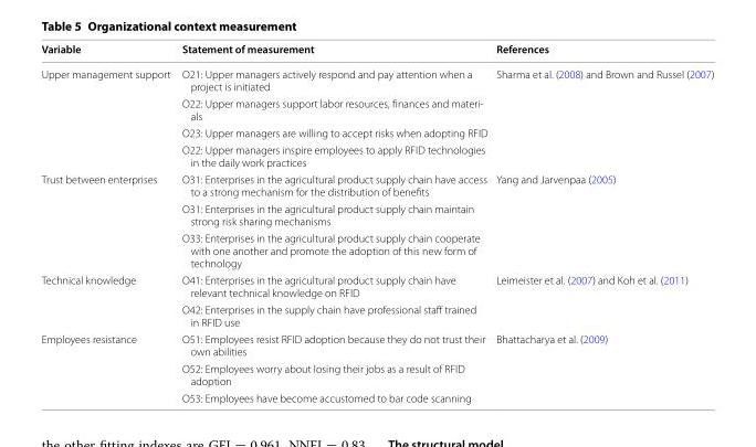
<table><thead><tr><td>Variable</td><td>Statement of measurement</td><td>References</td></tr></thead><tbody><tr><td rowspan="4">Upper management support</td><td>O21: Upper managers actively respond and pay attention when a project is initiated</td><td rowspan="4">Sharma et al. (2008) and Brown and Russel (2007)</td></tr><tr><td>O22: Upper managers support labor resources, finances and materi- als</td></tr><tr><td>O23: Upper managers are willing to accept risks when adopting RFID</td></tr><tr><td>O22: Upper managers inspire employees to apply RFID technologies in the daily work practices</td></tr><tr><td rowspan="3">Trust between enterprises</td><td>O31: Enterprises in the agricultural product supply chain have access to a strong mechanism for the distribution of benefits</td><td rowspan="3">Yang and Jarvenpaa (2005)</td></tr><tr><td>O31: Enterprises in the agricultural product supply chain maintain strong risk sharing mechanisms</td></tr><tr><td>O33: Enterprises in the agricultural product supply chain cooperate with one another and promote the adoption of this new form of technology</td></tr><tr><td rowspan="2">Technical knowledge</td><td>O41: Enterprises in the agricultural product supply chain have relevant technical knowledge on RFID</td><td rowspan="2">Leimeister et al. (2007) and Koh et al. (2011)</td></tr><tr><td>O42: Enterprises in the supply chain have professional staff trained in RFID use</td></tr><tr><td rowspan="3">Employees resistance</td><td>O51: Employees resist RFID adoption because they do not trust their own abilities</td><td rowspan="3">Bhattacharya et al. (2009)</td></tr><tr><td>O52: Employees worry about losing their jobs as a result of RFID adoption</td></tr><tr><td>O53: Employees have become accustomed to bar code scanning</td></tr></tbody></table>